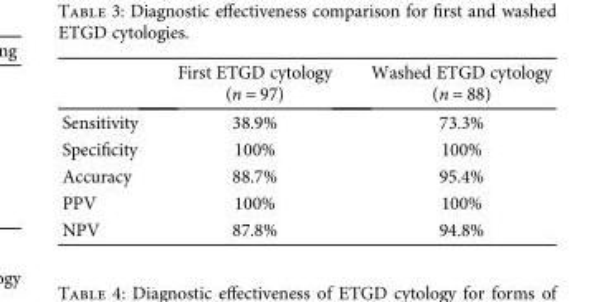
<table><thead><tr><td></td><td>First ETGD cytology (n = 97)</td><td>Washed ETGD cytology (n = 88)</td></tr></thead><tbody><tr><td>Sensitivity</td><td>38.9%</td><td>73.3%</td></tr><tr><td>Specificity</td><td>100%</td><td>100%</td></tr><tr><td>Accuracy</td><td>88.7%</td><td>95.4%</td></tr><tr><td>PPV</td><td>100%</td><td>100%</td></tr><tr><td>NPV</td><td>87.8%</td><td>94.8%</td></tr></tbody></table>